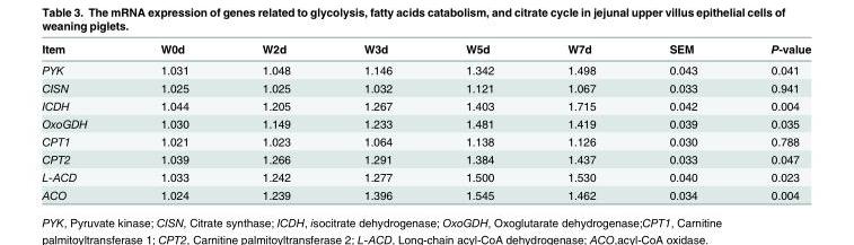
<table><thead><tr><td>Item</td><td>W0d</td><td>W2d</td><td>W3d</td><td>W5d</td><td>W7d</td><td>SEM</td><td>P-value</td></tr></thead><tbody><tr><td>PYK</td><td>1.031</td><td>1.048</td><td>1.146</td><td>1.342</td><td>1.498</td><td>0.043</td><td>0.041</td></tr><tr><td>CISN</td><td>1.025</td><td>1.025</td><td>1.032</td><td>1.121</td><td>1.067</td><td>0.033</td><td>0.941</td></tr><tr><td>ICDH</td><td>1.044</td><td>1.205</td><td>1.267</td><td>1.403</td><td>1.715</td><td>0.042</td><td>0.004</td></tr><tr><td>OxoGDH</td><td>1.030</td><td>1.149</td><td>1.233</td><td>1.481</td><td>1.419</td><td>0.039</td><td>0.035</td></tr><tr><td>CPT1</td><td>1.021</td><td>1.023</td><td>1.064</td><td>1.138</td><td>1.126</td><td>0.030</td><td>0.788</td></tr><tr><td>CPT2</td><td>1.039</td><td>1.266</td><td>1.291</td><td>1.384</td><td>1.437</td><td>0.033</td><td>0.047</td></tr><tr><td>L-ACD</td><td>1.033</td><td>1.242</td><td>1.277</td><td>1.500</td><td>1.530</td><td>0.040</td><td>0.023</td></tr><tr><td>ACO</td><td>1.024</td><td>1.239</td><td>1.396</td><td>1.545</td><td>1.462</td><td>0.034</td><td>0.004</td></tr></tbody></table>